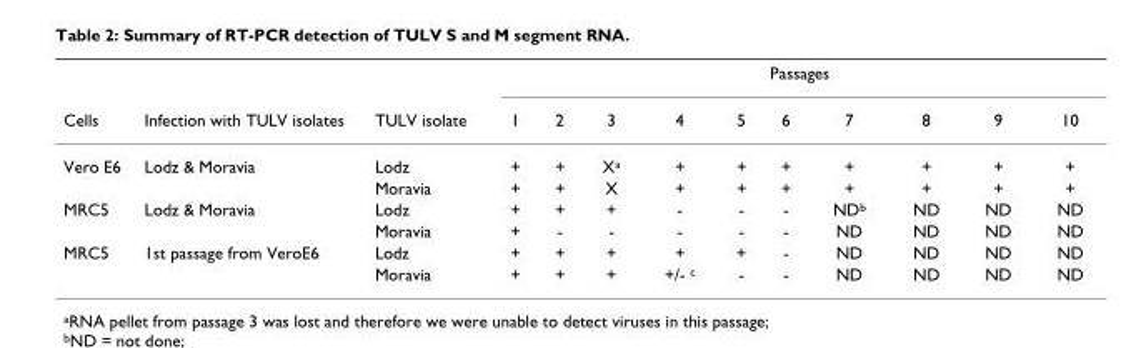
<table><thead><tr><td rowspan="2">Cells</td><td rowspan="2">Infection with TULV isolates</td><td rowspan="2">TULV isolate</td><td colspan="10">Passages</td></tr><tr><td>1</td><td>2</td><td>3</td><td>4</td><td>5</td><td>6</td><td>7</td><td>8</td><td>9</td><td>10</td></tr></thead><tbody><tr><td rowspan="2">Vero E6</td><td>Lodz &amp; Moravia</td><td>Lodz</td><td>+</td><td>+</td><td>X<sup>a</sup></td><td>+</td><td>+</td><td>+</td><td>+</td><td>+</td><td>+</td><td>+</td></tr><tr><td></td><td>Moravia</td><td>+</td><td>+</td><td>X</td><td>+</td><td>+</td><td>+</td><td>+</td><td>+</td><td>+</td><td>+</td></tr><tr><td rowspan="2">MRC5</td><td>Lodz &amp; Moravia</td><td>Lodz</td><td>+</td><td>+</td><td>+</td><td>-</td><td>-</td><td>-</td><td>ND<sup>b</sup></td><td>ND</td><td>ND</td><td>ND</td></tr><tr><td></td><td>Moravia</td><td>+</td><td>-</td><td>-</td><td>-</td><td>-</td><td>-</td><td>ND</td><td>ND</td><td>ND</td><td>ND</td></tr><tr><td rowspan="2">MRC5</td><td>1st passage from VeroE6</td><td>Lodz</td><td>+</td><td>+</td><td>+</td><td>+</td><td>+</td><td>-</td><td>ND</td><td>ND</td><td>ND</td><td>ND</td></tr><tr><td></td><td>Moravia</td><td>+</td><td>+</td><td>+</td><td>+/- <sup>c</sup></td><td>-</td><td>-</td><td>ND</td><td>ND</td><td>ND</td><td>ND</td></tr></tbody></table>